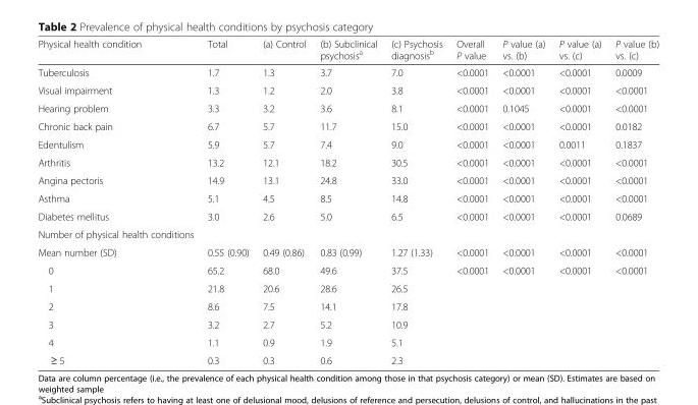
<table><thead><tr><td>Physical health condition</td><td>Total</td><td>(a) Control</td><td>(b) Subclinical psychosis<sup>a</sup></td><td>(c) Psychosis diagnosis<sup>b</sup></td><td>Overall P value</td><td>P value (a) vs. (b)</td><td>P value (a) vs. (c)</td><td>P value (b) vs. (c)</td></tr></thead><tbody><tr><td>Tuberculosis</td><td>1.7</td><td>1.3</td><td>3.7</td><td>7.0</td><td>&lt;0.0001</td><td>&lt;0.0001</td><td>&lt;0.0001</td><td>0.0009</td></tr><tr><td>Visual impairment</td><td>1.3</td><td>1.2</td><td>2.0</td><td>3.8</td><td>&lt;0.0001</td><td>&lt;0.0001</td><td>&lt;0.0001</td><td>&lt;0.0001</td></tr><tr><td>Hearing problem</td><td>3.3</td><td>3.2</td><td>3.6</td><td>8.1</td><td>&lt;0.0001</td><td>0.1045</td><td>&lt;0.0001</td><td>&lt;0.0001</td></tr><tr><td>Chronic back pain</td><td>6.7</td><td>5.7</td><td>11.7</td><td>15.0</td><td>&lt;0.0001</td><td>&lt;0.0001</td><td>&lt;0.0001</td><td>0.0182</td></tr><tr><td>Edentulism</td><td>5.9</td><td>5.7</td><td>7.4</td><td>9.0</td><td>&lt;0.0001</td><td>&lt;0.0001</td><td>0.0011</td><td>0.1837</td></tr><tr><td>Arthritis</td><td>13.2</td><td>12.1</td><td>18.2</td><td>30.5</td><td>&lt;0.0001</td><td>&lt;0.0001</td><td>&lt;0.0001</td><td>&lt;0.0001</td></tr><tr><td>Angina pectoris</td><td>14.9</td><td>13.1</td><td>24.8</td><td>33.0</td><td>&lt;0.0001</td><td>&lt;0.0001</td><td>&lt;0.0001</td><td>&lt;0.0001</td></tr><tr><td>Asthma</td><td>5.1</td><td>4.5</td><td>8.5</td><td>14.8</td><td>&lt;0.0001</td><td>&lt;0.0001</td><td>&lt;0.0001</td><td>&lt;0.0001</td></tr><tr><td>Diabetes mellitus</td><td>3.0</td><td>2.6</td><td>5.0</td><td>6.5</td><td>&lt;0.0001</td><td>&lt;0.0001</td><td>&lt;0.0001</td><td>0.0689</td></tr><tr><td colspan="9">Number of physical health conditions</td></tr><tr><td>Mean number (SD)</td><td>0.55 (0.90)</td><td>0.49 (0.86)</td><td>0.83 (0.99)</td><td>1.27 (1.33)</td><td>&lt;0.0001</td><td>&lt;0.0001</td><td>&lt;0.0001</td><td>&lt;0.0001</td></tr><tr><td>0</td><td>65.2</td><td>68.0</td><td>49.6</td><td>37.5</td><td>&lt;0.0001</td><td>&lt;0.0001</td><td>&lt;0.0001</td><td>&lt;0.0001</td></tr><tr><td>1</td><td>21.8</td><td>20.6</td><td>28.6</td><td>26.5</td><td></td><td></td><td></td><td></td></tr><tr><td>2</td><td>8.6</td><td>7.5</td><td>14.1</td><td>17.8</td><td></td><td></td><td></td><td></td></tr><tr><td>3</td><td>3.2</td><td>2.7</td><td>5.2</td><td>10.9</td><td></td><td></td><td></td><td></td></tr><tr><td>4</td><td>1.1</td><td>0.9</td><td>1.9</td><td>5.1</td><td></td><td></td><td></td><td></td></tr><tr><td>≥ 5</td><td>0.3</td><td>0.3</td><td>0.6</td><td>2.3</td><td></td><td></td><td></td><td></td></tr></tbody></table>